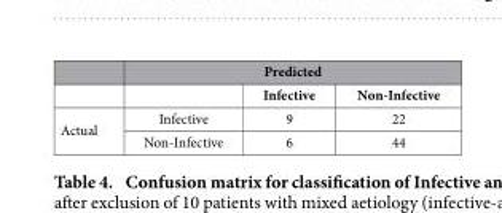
<table><thead><tr><td rowspan="2"></td><td colspan="3">Predicted</td></tr><tr><td></td><td>Infective</td><td>Non-Infective</td></tr></thead><tbody><tr><td rowspan="2">Actual</td><td>Infective</td><td>9</td><td>22</td></tr><tr><td>Non-Infective</td><td>6</td><td>44</td></tr></tbody></table>